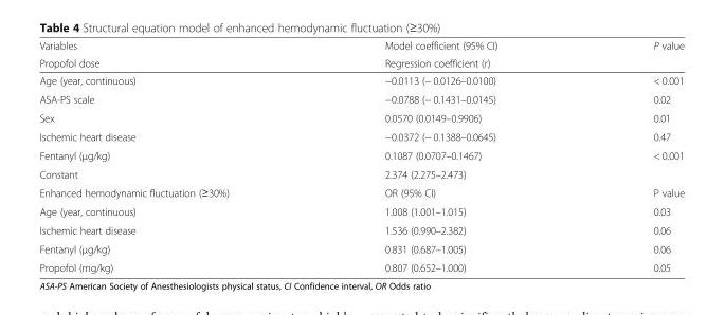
<table><thead><tr><td rowspan="2">Variables Propofol dose</td><td rowspan="2">Model coefficient (95% CI) Regression coefficient (r)</td><td rowspan="2">P value</td></tr><tr></tr></thead><tbody><tr><td>Age (year, continuous)</td><td>−0.0113 (− 0.0126–0.0100)</td><td>&lt; 0.001</td></tr><tr><td>ASA-PS scale</td><td>−0.0788 (− 0.1431–0.0145)</td><td>0.02</td></tr><tr><td>Sex</td><td>0.0570 (0.0149–0.9906)</td><td>0.01</td></tr><tr><td>Ischemic heart disease</td><td>−0.0372 (− 0.1388–0.0645)</td><td>0.47</td></tr><tr><td>Fentanyl (μg/kg)</td><td>0.1087 (0.0707–0.1467)</td><td>&lt; 0.001</td></tr><tr><td>Constant</td><td>2.374 (2.275–2.473)</td><td></td></tr><tr><td>Enhanced hemodynamic fluctuation (≥30%)</td><td>OR (95% CI)</td><td>P value</td></tr><tr><td>Age (year, continuous)</td><td>1.008 (1.001–1.015)</td><td>0.03</td></tr><tr><td>Ischemic heart disease</td><td>1.536 (0.990–2.382)</td><td>0.06</td></tr><tr><td>Fentanyl (μg/kg)</td><td>0.831 (0.687–1.005)</td><td>0.06</td></tr><tr><td>Propofol (mg/kg)</td><td>0.807 (0.652–1.000)</td><td>0.05</td></tr></tbody></table>